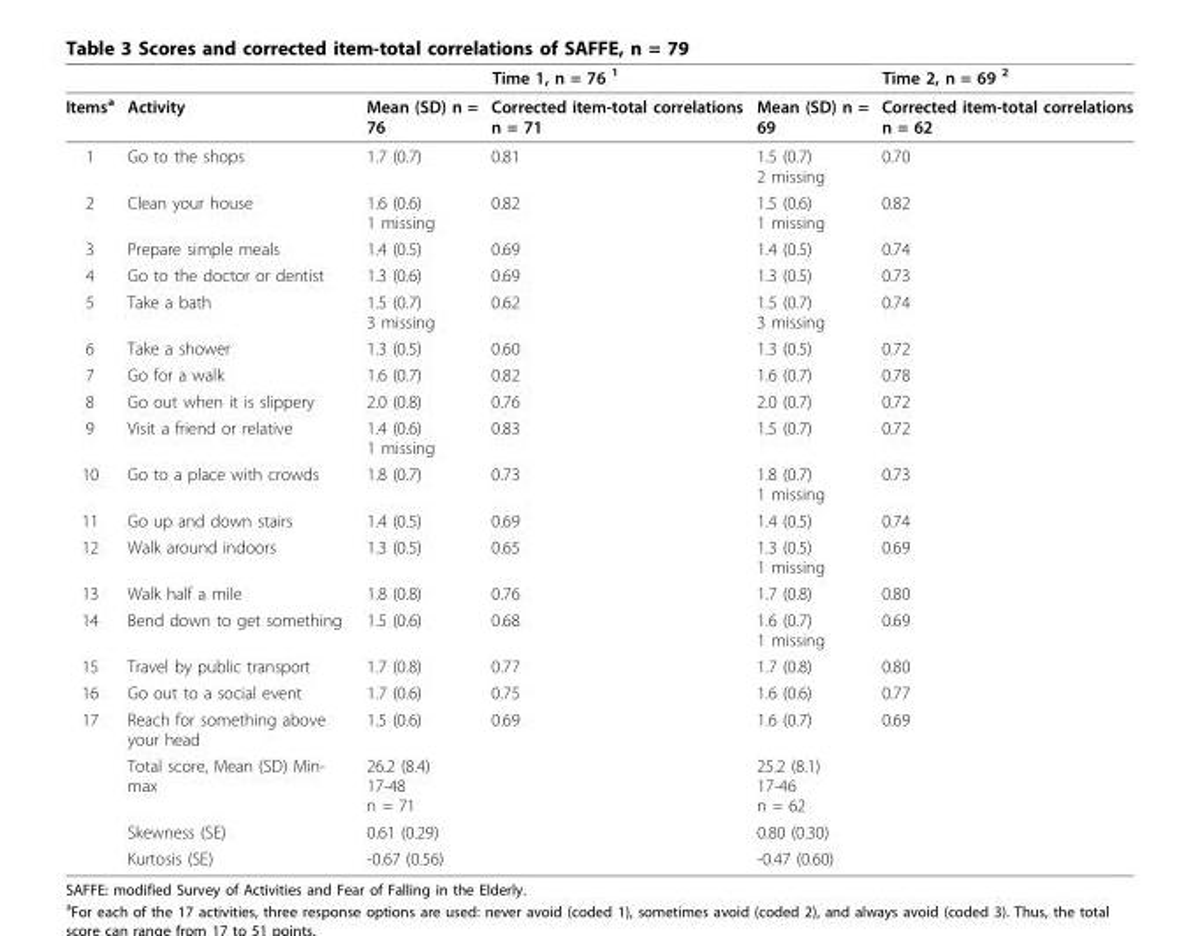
<table><thead><tr><td rowspan="2">Items<sup>a</sup></td><td rowspan="2">Activity</td><td colspan="2">Time 1, n = 76 <sup>1</sup></td><td colspan="2">Time 2, n = 69 <sup>2</sup></td></tr><tr><td>Mean (SD) n = 76</td><td>Corrected item-total correlations n = 71</td><td>Mean (SD) n = 69</td><td>Corrected item-total correlations n = 62</td></tr></thead><tbody><tr><td>1</td><td>Go to the shops</td><td>1.7 (0.7)</td><td>0.81</td><td>1.5 (0.7) 2 missing</td><td>0.70</td></tr><tr><td>2</td><td>Clean your house</td><td>1.6 (0.6) 1 missing</td><td>0.82</td><td>1.5 (0.6) 1 missing</td><td>0.82</td></tr><tr><td>3</td><td>Prepare simple meals</td><td>1.4 (0.5)</td><td>0.69</td><td>1.4 (0.5)</td><td>0.74</td></tr><tr><td>4</td><td>Go to the doctor or dentist</td><td>1.3 (0.6)</td><td>0.69</td><td>1.3 (0.5)</td><td>0.73</td></tr><tr><td>5</td><td>Take a bath</td><td>1.5 (0.7) 3 missing</td><td>0.62</td><td>1.5 (0.7) 3 missing</td><td>0.74</td></tr><tr><td>6</td><td>Take a shower</td><td>1.3 (0.5)</td><td>0.60</td><td>1.3 (0.5)</td><td>0.72</td></tr><tr><td>7</td><td>Go for a walk</td><td>1.6 (0.7)</td><td>0.82</td><td>1.6 (0.7)</td><td>0.78</td></tr><tr><td>8</td><td>Go out when it is slippery</td><td>2.0 (0.8)</td><td>0.76</td><td>2.0 (0.7)</td><td>0.72</td></tr><tr><td>9</td><td>Visit a friend or relative</td><td>1.4 (0.6) 1 missing</td><td>0.83</td><td>1.5 (0.7)</td><td>0.72</td></tr><tr><td>10</td><td>Go to a place with crowds</td><td>1.8 (0.7)</td><td>0.73</td><td>1.8 (0.7) 1 missing</td><td>0.73</td></tr><tr><td>11</td><td>Go up and down stairs</td><td>1.4 (0.5)</td><td>0.69</td><td>1.4 (0.5)</td><td>0.74</td></tr><tr><td>12</td><td>Walk around indoors</td><td>1.3 (0.5)</td><td>0.65</td><td>1.3 (0.5) 1 missing</td><td>0.69</td></tr><tr><td>13</td><td>Walk half a mile</td><td>1.8 (0.8)</td><td>0.76</td><td>1.7 (0.8)</td><td>0.80</td></tr><tr><td>14</td><td>Bend down to get something</td><td>1.5 (0.6)</td><td>0.68</td><td>1.6 (0.7) 1 missing</td><td>0.69</td></tr><tr><td>15</td><td>Travel by public transport</td><td>1.7 (0.8)</td><td>0.77</td><td>1.7 (0.8)</td><td>0.80</td></tr><tr><td>16</td><td>Go out to a social event</td><td>1.7 (0.6)</td><td>0.75</td><td>1.6 (0.6)</td><td>0.77</td></tr><tr><td rowspan="4">17</td><td>Reach for something above your head</td><td>1.5 (0.6)</td><td>0.69</td><td>1.6 (0.7)</td><td>0.69</td></tr><tr><td>Total score, Mean (SD) Min- max</td><td>26.2 (8.4) 17-48 n = 71</td><td></td><td>25.2 (8.1) 17-46 n = 62</td><td></td></tr><tr><td>Skewness (SE)</td><td>0.61 (0.29)</td><td></td><td>0.80 (0.30)</td><td></td></tr><tr><td>Kurtosis (SE)</td><td>-0.67 (0.56)</td><td></td><td>-0.47 (0.60)</td><td></td></tr></tbody></table>